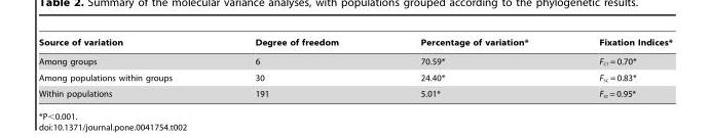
<table><thead><tr><td>Source of variation</td><td>Degree of freedom</td><td>Percentage of variation*</td><td>Fixation Indices*</td></tr></thead><tbody><tr><td>Among groups</td><td>6</td><td>70.59*</td><td>F<sub>CT</sub> = 0.70*</td></tr><tr><td>Among populations within groups</td><td>30</td><td>24.40*</td><td>F<sub>SC</sub> = 0.83*</td></tr><tr><td>Within populations</td><td>191</td><td>5.01*</td><td>F<sub>ST</sub> = 0.95*</td></tr></tbody></table>